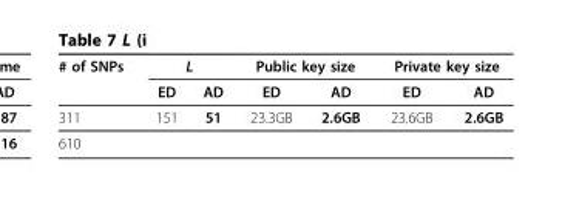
<table><thead><tr><td rowspan="2"># of SNPs</td><td colspan="2">L</td><td colspan="2">Public key size</td><td colspan="2">Private key size</td></tr><tr><td>ED</td><td>AD</td><td>ED</td><td>AD</td><td>ED</td><td>AD</td></tr></thead><tbody><tr><td>311</td><td>151</td><td>51</td><td>23.3GB</td><td>2.6GB</td><td>23.6GB</td><td>2.6GB</td></tr><tr><td>610</td><td></td><td></td><td></td><td></td><td></td><td></td></tr></tbody></table>